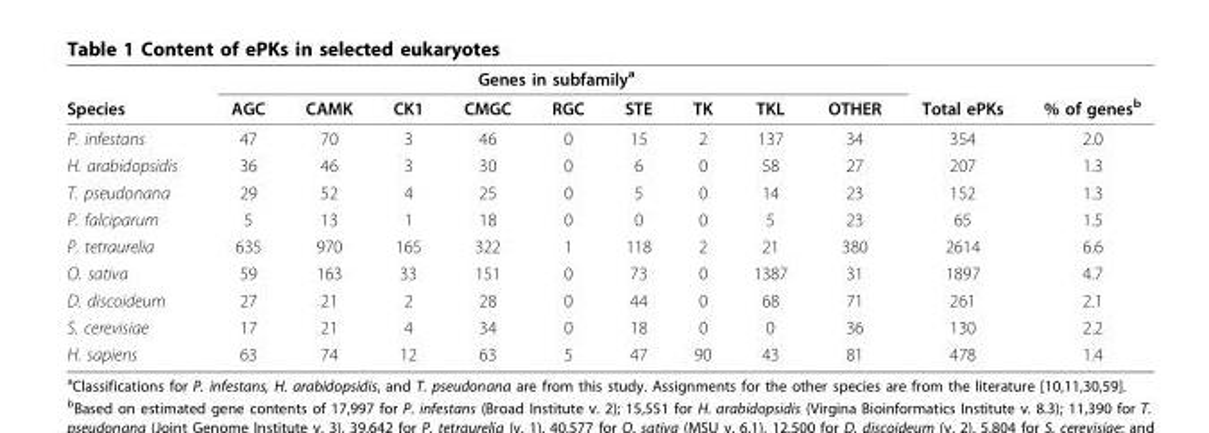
<table><thead><tr><td rowspan="2">Species</td><td colspan="9">Genes in subfamily<sup>a</sup></td><td rowspan="2">Total ePKs</td><td rowspan="2">% of genes<sup>b</sup></td></tr><tr><td>AGC</td><td>CAMK</td><td>CK1</td><td>CMGC</td><td>RGC</td><td>STE</td><td>TK</td><td>TKL</td><td>OTHER</td></tr></thead><tbody><tr><td>P. infestans</td><td>47</td><td>70</td><td>3</td><td>46</td><td>0</td><td>15</td><td>2</td><td>137</td><td>34</td><td>354</td><td>2.0</td></tr><tr><td>H. arabidopsidis</td><td>36</td><td>46</td><td>3</td><td>30</td><td>0</td><td>6</td><td>0</td><td>58</td><td>27</td><td>207</td><td>1.3</td></tr><tr><td>T. pseudonana</td><td>29</td><td>52</td><td>4</td><td>25</td><td>0</td><td>5</td><td>0</td><td>14</td><td>23</td><td>152</td><td>1.3</td></tr><tr><td>P. falciparum</td><td>5</td><td>13</td><td>1</td><td>18</td><td>0</td><td>0</td><td>0</td><td>5</td><td>23</td><td>65</td><td>1.5</td></tr><tr><td>P. tetraurelia</td><td>635</td><td>970</td><td>165</td><td>322</td><td>1</td><td>118</td><td>2</td><td>21</td><td>380</td><td>2614</td><td>6.6</td></tr><tr><td>O. sativa</td><td>59</td><td>163</td><td>33</td><td>151</td><td>0</td><td>73</td><td>0</td><td>1387</td><td>31</td><td>1897</td><td>4.7</td></tr><tr><td>D. discoideum</td><td>27</td><td>21</td><td>2</td><td>28</td><td>0</td><td>44</td><td>0</td><td>68</td><td>71</td><td>261</td><td>2.1</td></tr><tr><td>S. cerevisiae</td><td>17</td><td>21</td><td>4</td><td>34</td><td>0</td><td>18</td><td>0</td><td>0</td><td>36</td><td>130</td><td>2.2</td></tr><tr><td>H. sapiens</td><td>63</td><td>74</td><td>12</td><td>63</td><td>5</td><td>47</td><td>90</td><td>43</td><td>81</td><td>478</td><td>1.4</td></tr></tbody></table>